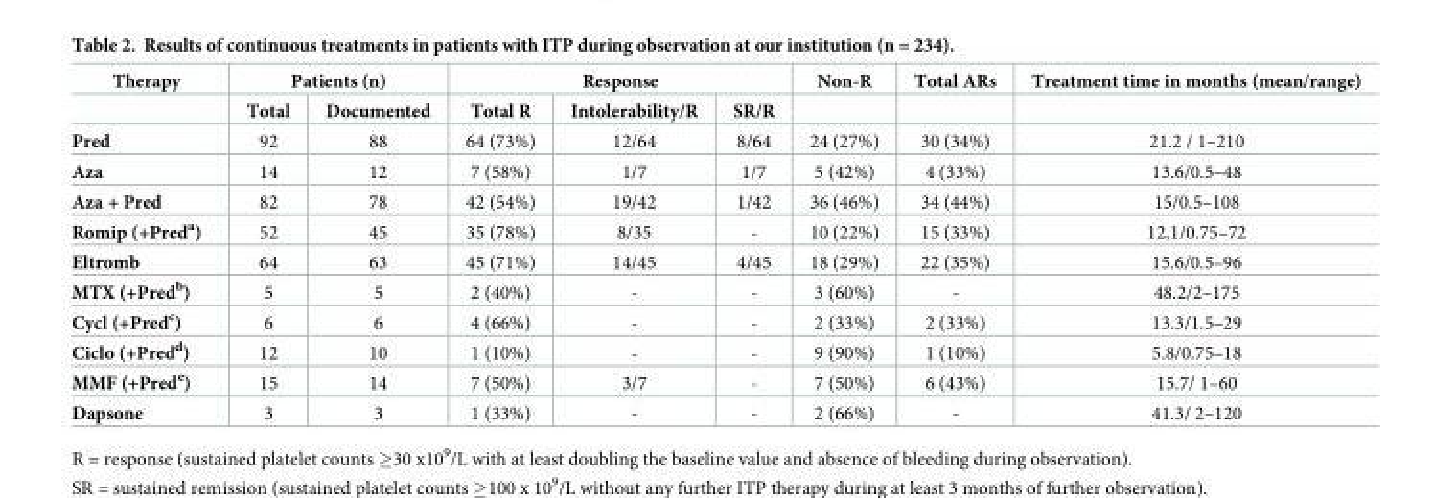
<table><thead><tr><td rowspan="2">Therapy</td><td colspan="2">Patients (n)</td><td colspan="3">Response</td><td rowspan="2">Non-R</td><td rowspan="2">Total ARs</td><td rowspan="2">Treatment time in months (mean/range)</td></tr><tr><td>Total</td><td>Documented</td><td>Total R</td><td>Intolerability/R</td><td>SR/R</td></tr></thead><tbody><tr><td>Pred</td><td>92</td><td>88</td><td>64 (73%)</td><td>12/64</td><td>8/64</td><td>24 (27%)</td><td>30 (34%)</td><td>21.2 / 1–210</td></tr><tr><td>Aza</td><td>14</td><td>12</td><td>7 (58%)</td><td>1/7</td><td>1/7</td><td>5 (42%)</td><td>4 (33%)</td><td>13.6/0.5–48</td></tr><tr><td>Aza + Pred</td><td>82</td><td>78</td><td>42 (54%)</td><td>19/42</td><td>1/42</td><td>36 (46%)</td><td>34 (44%)</td><td>15/0.5–108</td></tr><tr><td>Romip (+Pred<sup>a</sup>)</td><td>52</td><td>45</td><td>35 (78%)</td><td>8/35</td><td>-</td><td>10 (22%)</td><td>15 (33%)</td><td>12,1/0.75–72</td></tr><tr><td>Eltromb</td><td>64</td><td>63</td><td>45 (71%)</td><td>14/45</td><td>4/45</td><td>18 (29%)</td><td>22 (35%)</td><td>15.6/0.5–96</td></tr><tr><td>MTX (+Pred<sup>b</sup>)</td><td>5</td><td>5</td><td>2 (40%)</td><td>-</td><td>-</td><td>3 (60%)</td><td>-</td><td>48.2/2–175</td></tr><tr><td>Cycl (+Pred<sup>c</sup>)</td><td>6</td><td>6</td><td>4 (66%)</td><td>-</td><td>-</td><td>2 (33%)</td><td>2 (33%)</td><td>13.3/1.5–29</td></tr><tr><td>Ciclo (+Pred<sup>d</sup>)</td><td>12</td><td>10</td><td>1 (10%)</td><td>-</td><td>-</td><td>9 (90%)</td><td>1 (10%)</td><td>5.8/0.75–18</td></tr><tr><td>MMF (+Pred<sup>e</sup>)</td><td>15</td><td>14</td><td>7 (50%)</td><td>3/7</td><td>-</td><td>7 (50%)</td><td>6 (43%)</td><td>15.7/ 1–60</td></tr><tr><td>Dapsone</td><td>3</td><td>3</td><td>1 (33%)</td><td>-</td><td>-</td><td>2 (66%)</td><td>-</td><td>41.3/ 2–120</td></tr></tbody></table>